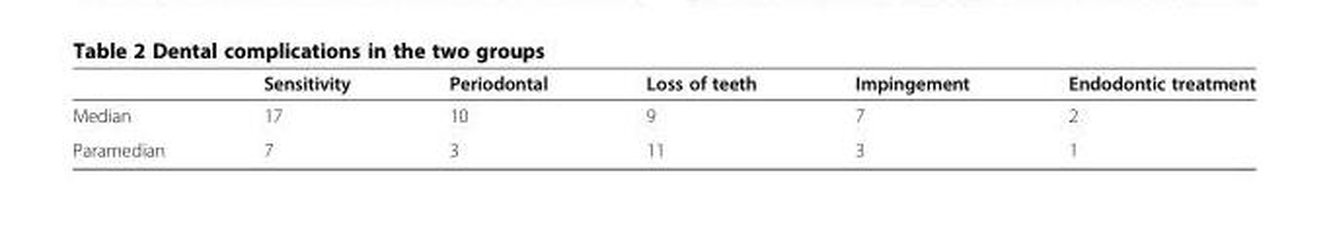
<table><thead><tr><td></td><td>Sensitivity</td><td>Periodontal</td><td>Loss of teeth</td><td>Impingement</td><td>Endodontic treatment</td></tr></thead><tbody><tr><td>Median</td><td>17</td><td>10</td><td>9</td><td>7</td><td>2</td></tr><tr><td>Paramedian</td><td>7</td><td>3</td><td>11</td><td>3</td><td>1</td></tr></tbody></table>